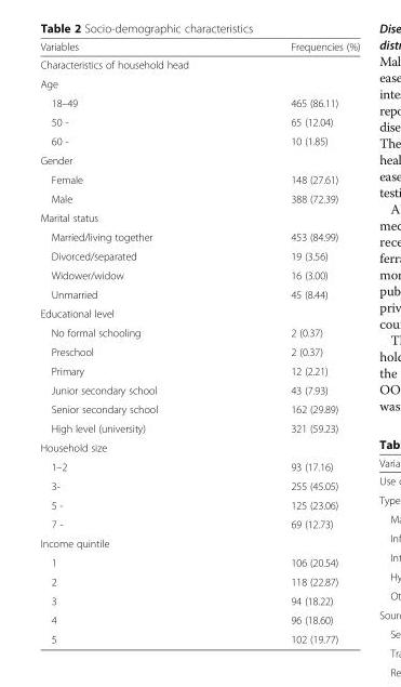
<table><thead><tr><td>Variables</td><td>Frequencies (%)</td></tr></thead><tbody><tr><td colspan="2">Characteristics of household head</td></tr><tr><td colspan="2">Age</td></tr><tr><td>18–49</td><td>465 (86.11)</td></tr><tr><td>50 -</td><td>65 (12.04)</td></tr><tr><td>60 -</td><td>10 (1.85)</td></tr><tr><td colspan="2">Gender</td></tr><tr><td>Female</td><td>148 (27.61)</td></tr><tr><td>Male</td><td>388 (72.39)</td></tr><tr><td colspan="2">Marital status</td></tr><tr><td>Married/living together</td><td>453 (84.99)</td></tr><tr><td>Divorced/separated</td><td>19 (3.56)</td></tr><tr><td>Widower/widow</td><td>16 (3.00)</td></tr><tr><td>Unmarried</td><td>45 (8.44)</td></tr><tr><td colspan="2">Educational level</td></tr><tr><td>No formal schooling</td><td>2 (0.37)</td></tr><tr><td>Preschool</td><td>2 (0.37)</td></tr><tr><td>Primary</td><td>12 (2.21)</td></tr><tr><td>Junior secondary school</td><td>43 (7.93)</td></tr><tr><td>Senior secondary school</td><td>162 (29.89)</td></tr><tr><td>High level (university)</td><td>321 (59.23)</td></tr><tr><td colspan="2">Household size</td></tr><tr><td>1–2</td><td>93 (17.16)</td></tr><tr><td>3-</td><td>255 (45.05)</td></tr><tr><td>5 -</td><td>125 (23.06)</td></tr><tr><td>7 -</td><td>69 (12.73)</td></tr><tr><td colspan="2">Income quintile</td></tr><tr><td>1</td><td>106 (20.54)</td></tr><tr><td>2</td><td>118 (22.87)</td></tr><tr><td>3</td><td>94 (18.22)</td></tr><tr><td>4</td><td>96 (18.60)</td></tr><tr><td>5</td><td>102 (19.77)</td></tr></tbody></table>